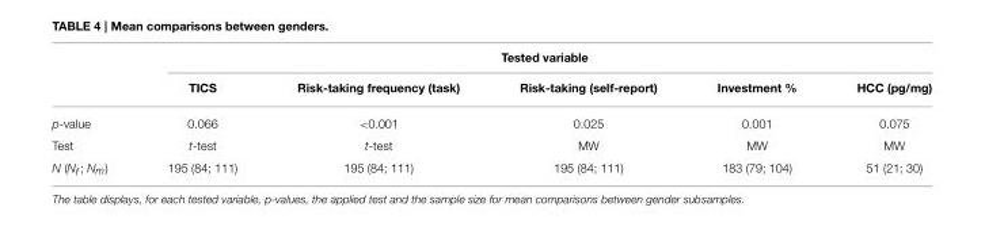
<table><thead><tr><td rowspan="2"></td><td colspan="5">Tested variable</td></tr><tr><td>TICS</td><td>Risk-taking frequency (task)</td><td>Risk-taking (self-report)</td><td>Investment %</td><td>HCC (pg/mg)</td></tr></thead><tbody><tr><td>p-value</td><td>0.066</td><td>&lt;0.001</td><td>0.025</td><td>0.001</td><td>0.075</td></tr><tr><td>Test</td><td>t-test</td><td>t-test</td><td>MW</td><td>MW</td><td>MW</td></tr><tr><td>N (Nf; Nm)</td><td>195 (84; 111)</td><td>195 (84; 111)</td><td>195 (84; 111)</td><td>183 (79; 104)</td><td>51 (21; 30)</td></tr></tbody></table>